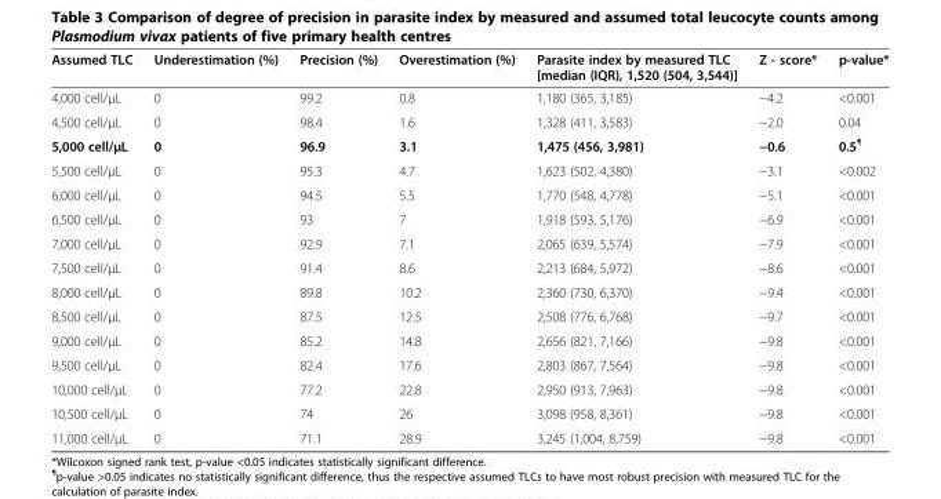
<table><thead><tr><td>Assumed TLC</td><td>Underestimation (%)</td><td>Precision (%)</td><td>Overestimation (%)</td><td>Parasite index by measured TLC [median (IQR), 1,520 (504, 3,544)]</td><td>Z - score*</td><td>p-value*</td></tr></thead><tbody><tr><td>4,000 cell/μL</td><td>0</td><td>99.2</td><td>0.8</td><td>1,180 (365, 3,185)</td><td>−4.2</td><td>&lt;0.001</td></tr><tr><td>4,500 cell/μL</td><td>0</td><td>98.4</td><td>1.6</td><td>1,328 (411, 3,583)</td><td>−2.0</td><td>0.04</td></tr><tr><td>5,000 cell/μL</td><td>0</td><td>96.9</td><td>3.1</td><td>1,475 (456, 3,981)</td><td>−0.6</td><td>0.5<sup>¶</sup></td></tr><tr><td>5,500 cell/μL</td><td>0</td><td>95.3</td><td>4.7</td><td>1,623 (502, 4,380)</td><td>−3.1</td><td>&lt;0.002</td></tr><tr><td>6,000 cell/μL</td><td>0</td><td>94.5</td><td>5.5</td><td>1,770 (548, 4,778)</td><td>−5.1</td><td>&lt;0.001</td></tr><tr><td>6,500 cell/μL</td><td>0</td><td>93</td><td>7</td><td>1,918 (593, 5,176)</td><td>−6.9</td><td>&lt;0.001</td></tr><tr><td>7,000 cell/μL</td><td>0</td><td>92.9</td><td>7.1</td><td>2,065 (639, 5,574)</td><td>−7.9</td><td>&lt;0.001</td></tr><tr><td>7,500 cell/μL</td><td>0</td><td>91.4</td><td>8.6</td><td>2,213 (684, 5,972)</td><td>−8.6</td><td>&lt;0.001</td></tr><tr><td>8,000 cell/μL</td><td>0</td><td>89.8</td><td>10.2</td><td>2,360 (730, 6,370)</td><td>−9.4</td><td>&lt;0.001</td></tr><tr><td>8,500 cell/μL</td><td>0</td><td>87.5</td><td>12.5</td><td>2,508 (776, 6,768)</td><td>−9.7</td><td>&lt;0.001</td></tr><tr><td>9,000 cell/μL</td><td>0</td><td>85.2</td><td>14.8</td><td>2,656 (821, 7,166)</td><td>−9.8</td><td>&lt;0.001</td></tr><tr><td>9,500 cell/μL</td><td>0</td><td>82.4</td><td>17.6</td><td>2,803 (867, 7,564)</td><td>−9.8</td><td>&lt;0.001</td></tr><tr><td>10,000 cell/μL</td><td>0</td><td>77.2</td><td>22.8</td><td>2,950 (913, 7,963)</td><td>−9.8</td><td>&lt;0.001</td></tr><tr><td>10,500 cell/μL</td><td>0</td><td>74</td><td>26</td><td>3,098 (958, 8,361)</td><td>−9.8</td><td>&lt;0.001</td></tr><tr><td>11,000 cell/μL</td><td>0</td><td>71.1</td><td>28.9</td><td>3,245 (1,004, 8,759)</td><td>−9.8</td><td>&lt;0.001</td></tr></tbody></table>